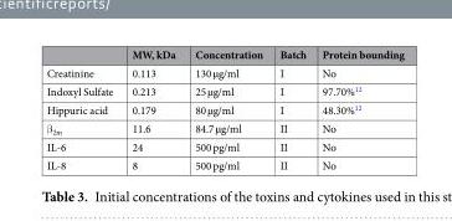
<table><thead><tr><td></td><td>MW, kDa</td><td>Concentration</td><td>Batch</td><td>Protein bounding</td></tr></thead><tbody><tr><td>Creatinine</td><td>0.113</td><td>130 µg/ml</td><td>I</td><td>No</td></tr><tr><td>Indoxyl Sulfate</td><td>0.213</td><td>25 µg/ml</td><td>I</td><td>97.70%<sup>12</sup></td></tr><tr><td>Hippuric acid</td><td>0.179</td><td>80 µg/ml</td><td>I</td><td>48.30%<sup>12</sup></td></tr><tr><td>β<sub>2m</sub></td><td>11.6</td><td>84.7 µg/ml</td><td>II</td><td>No</td></tr><tr><td>IL-6</td><td>24</td><td>500 pg/ml</td><td>II</td><td>No</td></tr><tr><td>IL-8</td><td>8</td><td>500 pg/ml</td><td>II</td><td>No</td></tr></tbody></table>